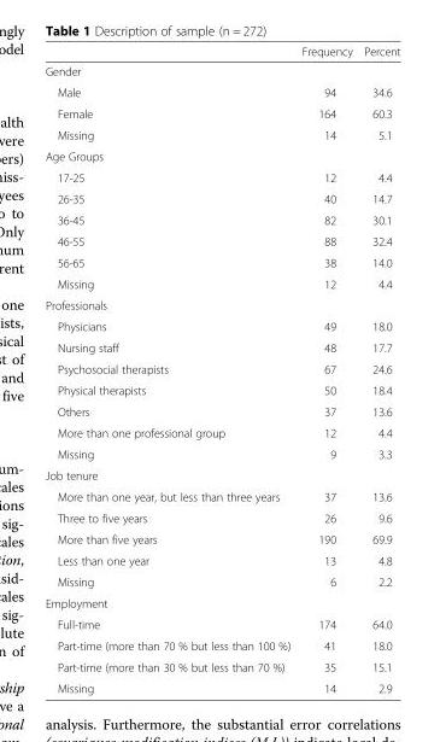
<table><thead><tr><td></td><td>Frequency</td><td>Percent</td></tr></thead><tbody><tr><td colspan="3">Gender</td></tr><tr><td>Male</td><td>94</td><td>34.6</td></tr><tr><td>Female</td><td>164</td><td>60.3</td></tr><tr><td>Missing</td><td>14</td><td>5.1</td></tr><tr><td colspan="3">Age Groups</td></tr><tr><td>17-25</td><td>12</td><td>4.4</td></tr><tr><td>26-35</td><td>40</td><td>14.7</td></tr><tr><td>36-45</td><td>82</td><td>30.1</td></tr><tr><td>46-55</td><td>88</td><td>32.4</td></tr><tr><td>56-65</td><td>38</td><td>14.0</td></tr><tr><td>Missing</td><td>12</td><td>4.4</td></tr><tr><td colspan="3">Professionals</td></tr><tr><td>Physicians</td><td>49</td><td>18.0</td></tr><tr><td>Nursing staff</td><td>48</td><td>17.7</td></tr><tr><td>Psychosocial therapists</td><td>67</td><td>24.6</td></tr><tr><td>Physical therapists</td><td>50</td><td>18.4</td></tr><tr><td>Others</td><td>37</td><td>13.6</td></tr><tr><td>More than one professional group</td><td>12</td><td>4.4</td></tr><tr><td>Missing</td><td>9</td><td>3.3</td></tr><tr><td colspan="3">Job tenure</td></tr><tr><td>More than one year, but less than three years</td><td>37</td><td>13.6</td></tr><tr><td>Three to five years</td><td>26</td><td>9.6</td></tr><tr><td>More than five years</td><td>190</td><td>69.9</td></tr><tr><td>Less than one year</td><td>13</td><td>4.8</td></tr><tr><td>Missing</td><td>6</td><td>2.2</td></tr><tr><td colspan="3">Employment</td></tr><tr><td>Full-time</td><td>174</td><td>64.0</td></tr><tr><td>Part-time (more than 70 % but less than 100 %)</td><td>41</td><td>18.0</td></tr><tr><td>Part-time (more than 30 % but less than 70 %)</td><td>35</td><td>15.1</td></tr><tr><td>Missing</td><td>14</td><td>2.9</td></tr></tbody></table>